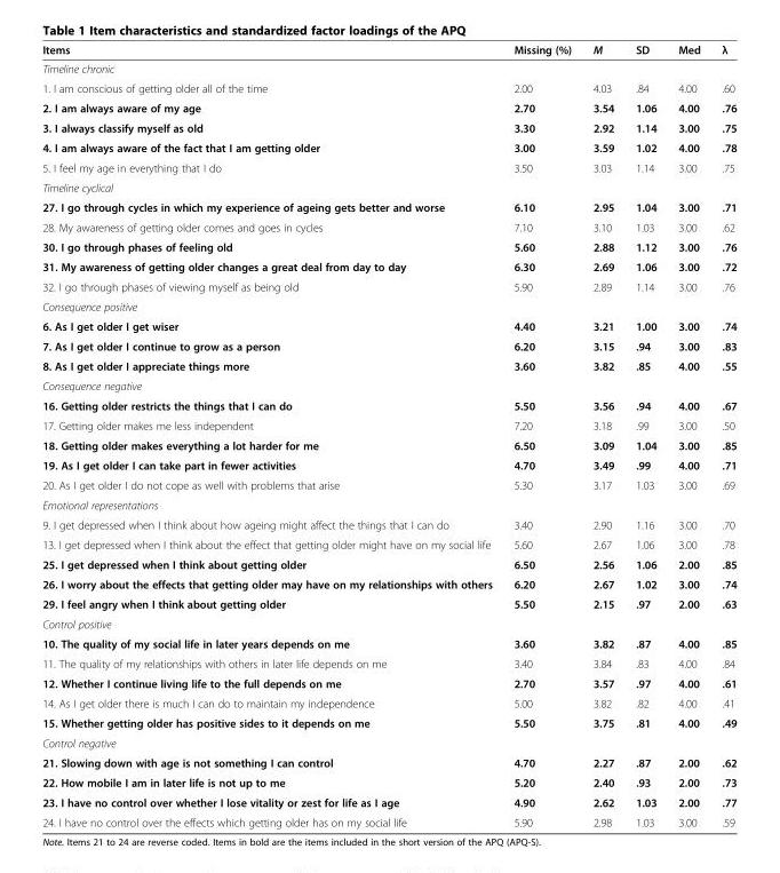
<table><thead><tr><td>Items</td><td>Missing (%)</td><td>M</td><td>SD</td><td>Med</td><td>λ</td></tr></thead><tbody><tr><td colspan="6">Timeline chronic</td></tr><tr><td>1. I am conscious of getting older all of the time</td><td>2.00</td><td>4.03</td><td>.84</td><td>4.00</td><td>.60</td></tr><tr><td>2. I am always aware of my age</td><td>2.70</td><td>3.54</td><td>1.06</td><td>4.00</td><td>.76</td></tr><tr><td>3. I always classify myself as old</td><td>3.30</td><td>2.92</td><td>1.14</td><td>3.00</td><td>.75</td></tr><tr><td>4. I am always aware of the fact that I am getting older</td><td>3.00</td><td>3.59</td><td>1.02</td><td>4.00</td><td>.78</td></tr><tr><td>5. I feel my age in everything that I do</td><td>3.50</td><td>3.03</td><td>1.14</td><td>3.00</td><td>.75</td></tr><tr><td colspan="6">Timeline cyclical</td></tr><tr><td>27. I go through cycles in which my experience of ageing gets better and worse</td><td>6.10</td><td>2.95</td><td>1.04</td><td>3.00</td><td>.71</td></tr><tr><td>28. My awareness of getting older comes and goes in cycles</td><td>7.10</td><td>3.10</td><td>1.03</td><td>3.00</td><td>.62</td></tr><tr><td>30. I go through phases of feeling old</td><td>5.60</td><td>2.88</td><td>1.12</td><td>3.00</td><td>.76</td></tr><tr><td>31. My awareness of getting older changes a great deal from day to day</td><td>6.30</td><td>2.69</td><td>1.06</td><td>3.00</td><td>.72</td></tr><tr><td>32. I go through phases of viewing myself as being old</td><td>5.90</td><td>2.89</td><td>1.14</td><td>3.00</td><td>.76</td></tr><tr><td colspan="6">Consequence positive</td></tr><tr><td>6. As I get older I get wiser</td><td>4.40</td><td>3.21</td><td>1.00</td><td>3.00</td><td>.74</td></tr><tr><td>7. As I get older I continue to grow as a person</td><td>6.20</td><td>3.15</td><td>.94</td><td>3.00</td><td>.83</td></tr><tr><td>8. As I get older I appreciate things more</td><td>3.60</td><td>3.82</td><td>.85</td><td>4.00</td><td>.55</td></tr><tr><td colspan="6">Consequence negative</td></tr><tr><td>16. Getting older restricts the things that I can do</td><td>5.50</td><td>3.56</td><td>.94</td><td>4.00</td><td>.67</td></tr><tr><td>17. Getting older makes me less independent</td><td>7.20</td><td>3.18</td><td>.99</td><td>3.00</td><td>.50</td></tr><tr><td>18. Getting older makes everything a lot harder for me</td><td>6.50</td><td>3.09</td><td>1.04</td><td>3.00</td><td>.85</td></tr><tr><td>19. As I get older I can take part in fewer activities</td><td>4.70</td><td>3.49</td><td>.99</td><td>4.00</td><td>.71</td></tr><tr><td>20. As I get older I do not cope as well with problems that arise</td><td>5.30</td><td>3.17</td><td>1.03</td><td>3.00</td><td>.69</td></tr><tr><td colspan="6">Emotional representations</td></tr><tr><td>9. I get depressed when I think about how ageing might affect the things that I can do</td><td>3.40</td><td>2.90</td><td>1.16</td><td>3.00</td><td>.70</td></tr><tr><td>13. I get depressed when I think about the effect that getting older might have on my social life</td><td>5.60</td><td>2.67</td><td>1.06</td><td>3.00</td><td>.78</td></tr><tr><td>25. I get depressed when I think about getting older</td><td>6.50</td><td>2.56</td><td>1.06</td><td>2.00</td><td>.85</td></tr><tr><td>26. I worry about the effects that getting older may have on my relationships with others</td><td>6.20</td><td>2.67</td><td>1.02</td><td>3.00</td><td>.74</td></tr><tr><td>29. I feel angry when I think about getting older</td><td>5.50</td><td>2.15</td><td>.97</td><td>2.00</td><td>.63</td></tr><tr><td colspan="6">Control positive</td></tr><tr><td>10. The quality of my social life in later years depends on me</td><td>3.60</td><td>3.82</td><td>.87</td><td>4.00</td><td>.85</td></tr><tr><td>11. The quality of my relationships with others in later life depends on me</td><td>3.40</td><td>3.84</td><td>.83</td><td>4.00</td><td>.84</td></tr><tr><td>12. Whether I continue living life to the full depends on me</td><td>2.70</td><td>3.57</td><td>.97</td><td>4.00</td><td>.61</td></tr><tr><td>14. As I get older there is much I can do to maintain my independence</td><td>5.00</td><td>3.82</td><td>.82</td><td>4.00</td><td>.41</td></tr><tr><td>15. Whether getting older has positive sides to it depends on me</td><td>5.50</td><td>3.75</td><td>.81</td><td>4.00</td><td>.49</td></tr><tr><td colspan="6">Control negative</td></tr><tr><td>21. Slowing down with age is not something I can control</td><td>4.70</td><td>2.27</td><td>.87</td><td>2.00</td><td>.62</td></tr><tr><td>22. How mobile I am in later life is not up to me</td><td>5.20</td><td>2.40</td><td>.93</td><td>2.00</td><td>.73</td></tr><tr><td>23. I have no control over whether I lose vitality or zest for life as I age</td><td>4.90</td><td>2.62</td><td>1.03</td><td>2.00</td><td>.77</td></tr><tr><td>24. I have no control over the effects which getting older has on my social life</td><td>5.90</td><td>2.98</td><td>1.03</td><td>3.00</td><td>.59</td></tr></tbody></table>